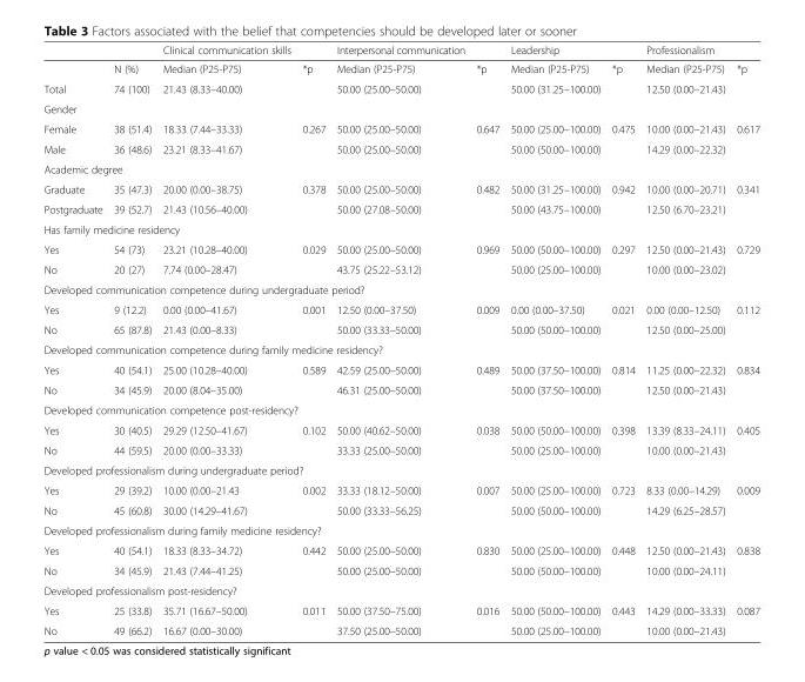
<table><thead><tr><td></td><td></td><td>Clinical communication skills</td><td></td><td>Interpersonal communication</td><td></td><td>Leadership</td><td></td><td>Professionalism</td><td></td></tr></thead><tbody><tr><td></td><td>N (%)</td><td>Median (P25-P75)</td><td>*p</td><td>Median (P25-P75)</td><td>*p</td><td>Median (P25-P75)</td><td>*p</td><td>Median (P25-P75)</td><td>*p</td></tr><tr><td>Total</td><td>74 (100)</td><td>21.43 (8.33–40.00)</td><td></td><td>50.00 (25.00–50.00)</td><td></td><td>50.00 (31.25–100.00)</td><td></td><td>12.50 (0.00–21.43)</td><td></td></tr><tr><td colspan="10">Gender</td></tr><tr><td>Female</td><td>38 (51.4)</td><td>18.33 (7.44–33.33)</td><td>0.267</td><td>50.00 (25.00–50.00)</td><td>0.647</td><td>50.00 (25.00–100.00)</td><td>0.475</td><td>10.00 (0.00–21.43)</td><td>0.617</td></tr><tr><td>Male</td><td>36 (48.6)</td><td>23.21 (8.33–41.67)</td><td></td><td>50.00 (25.00–50.00)</td><td></td><td>50.00 (50.00–100.00)</td><td></td><td>14.29 (0.00–22.32)</td><td></td></tr><tr><td colspan="10">Academic degree</td></tr><tr><td>Graduate</td><td>35 (47.3)</td><td>20.00 (0.00–38.75)</td><td>0.378</td><td>50.00 (25.00–50.00)</td><td>0.482</td><td>50.00 (31.25–100.00)</td><td>0.942</td><td>10.00 (0.00–20.71)</td><td>0.341</td></tr><tr><td>Postgraduate</td><td>39 (52.7)</td><td>21.43 (10.56–40.00)</td><td></td><td>50.00 (27.08–50.00)</td><td></td><td>50.00 (43.75–100.00)</td><td></td><td>12.50 (6.70–23.21)</td><td></td></tr><tr><td colspan="10">Has family medicine residency</td></tr><tr><td>Yes</td><td>54 (73)</td><td>23.21 (10.28–40.00)</td><td>0.029</td><td>50.00 (25.00–50.00)</td><td>0.969</td><td>50.00 (50.00–100.00)</td><td>0.297</td><td>12.50 (0.00–21.43)</td><td>0.729</td></tr><tr><td>No</td><td>20 (27)</td><td>7.74 (0.00–28.47)</td><td></td><td>43.75 (25.22–53.12)</td><td></td><td>50.00 (25.00–100.00)</td><td></td><td>10.00 (0.00–23.02)</td><td></td></tr><tr><td colspan="10">Developed communication competence during undergraduate period?</td></tr><tr><td>Yes</td><td>9 (12.2)</td><td>0.00 (0.00–41.67)</td><td>0.001</td><td>12.50 (0.00–37.50)</td><td>0.009</td><td>0.00 (0.00–37.50)</td><td>0.021</td><td>0.00 (0.00–12.50)</td><td>0.112</td></tr><tr><td>No</td><td>65 (87.8)</td><td>21.43 (0.00–8.33)</td><td></td><td>50.00 (33.33–50.00)</td><td></td><td>50.00 (50.00–100.00)</td><td></td><td>12.50 (0.00–25.00)</td><td></td></tr><tr><td colspan="10">Developed communication competence during family medicine residency?</td></tr><tr><td>Yes</td><td>40 (54.1)</td><td>25.00 (10.28–40.00)</td><td>0.589</td><td>42.59 (25.00–50.00)</td><td>0.489</td><td>50.00 (37.50–100.00)</td><td>0.814</td><td>11.25 (0.00–22.32)</td><td>0.834</td></tr><tr><td>No</td><td>34 (45.9)</td><td>20.00 (8.04–35.00)</td><td></td><td>46.31 (25.00–50.00)</td><td></td><td>50.00 (37.50–100.00)</td><td></td><td>12.50 (0.00–21.43)</td><td></td></tr><tr><td colspan="10">Developed communication competence post-residency?</td></tr><tr><td>Yes</td><td>30 (40.5)</td><td>29.29 (12.50–41.67)</td><td>0.102</td><td>50.00 (40.62–50.00)</td><td>0.038</td><td>50.00 (50.00–100.00)</td><td>0.398</td><td>13.39 (8.33–24.11)</td><td>0.405</td></tr><tr><td>No</td><td>44 (59.5)</td><td>20.00 (0.00–33.33)</td><td></td><td>33.33 (25.00–50.00)</td><td></td><td>50.00 (25.00–100.00)</td><td></td><td>10.00 (0.00–21.43)</td><td></td></tr><tr><td colspan="10">Developed professionalism during undergraduate period?</td></tr><tr><td>Yes</td><td>29 (39.2)</td><td>10.00 (0.00–21.43</td><td>0.002</td><td>33.33 (18.12–50.00)</td><td>0.007</td><td>50.00 (25.00–100.00)</td><td>0.723</td><td>8.33 (0.00–14.29)</td><td>0.009</td></tr><tr><td>No</td><td>45 (60.8)</td><td>30.00 (14.29–41.67)</td><td></td><td>50.00 (33.33–56.25)</td><td></td><td>50.00 (50.00–100.00)</td><td></td><td>14.29 (6.25–28.57)</td><td></td></tr><tr><td colspan="10">Developed professionalism during family medicine residency?</td></tr><tr><td>Yes</td><td>40 (54.1)</td><td>18.33 (8.33–34.72)</td><td>0.442</td><td>50.00 (25.00–50.00)</td><td>0.830</td><td>50.00 (25.00–100.00)</td><td>0.448</td><td>12.50 (0.00–21.43)</td><td>0.838</td></tr><tr><td>No</td><td>34 (45.9)</td><td>21.43 (7.44–41.25)</td><td></td><td>50.00 (25.00–50.00)</td><td></td><td>50.00 (50.00–100.00)</td><td></td><td>10.00 (0.00–24.11)</td><td></td></tr><tr><td colspan="10">Developed professionalism post-residency?</td></tr><tr><td>Yes</td><td>25 (33.8)</td><td>35.71 (16.67–50.00)</td><td>0.011</td><td>50.00 (37.50–75.00)</td><td>0.016</td><td>50.00 (50.00–100.00)</td><td>0.443</td><td>14.29 (0.00–33.33)</td><td>0.087</td></tr><tr><td>No</td><td>49 (66.2)</td><td>16.67 (0.00–30.00)</td><td></td><td>37.50 (25.00–50.00)</td><td></td><td>50.00 (25.00–100.00)</td><td></td><td>10.00 (0.00–21.43)</td><td></td></tr></tbody></table>